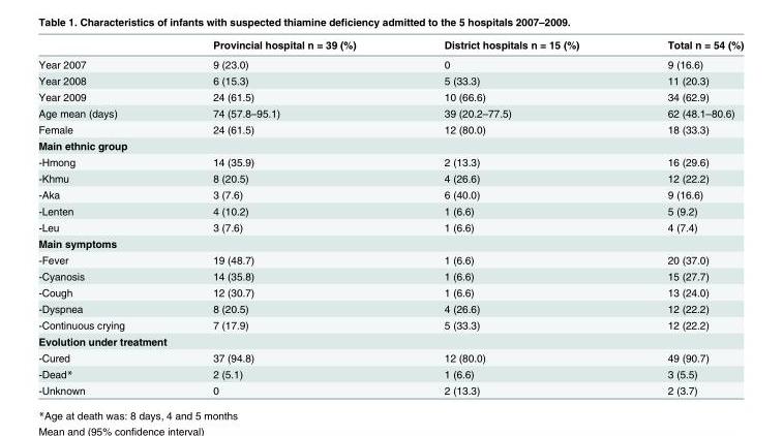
<table><thead><tr><td></td><td>Provincial hospital n = 39 (%)</td><td>District hospitals n = 15 (%)</td><td>Total n = 54 (%)</td></tr></thead><tbody><tr><td>Year 2007</td><td>9 (23.0)</td><td>0</td><td>9 (16.6)</td></tr><tr><td>Year 2008</td><td>6 (15.3)</td><td>5 (33.3)</td><td>11 (20.3)</td></tr><tr><td>Year 2009</td><td>24 (61.5)</td><td>10 (66.6)</td><td>34 (62.9)</td></tr><tr><td>Age mean (days)</td><td>74 (57.8–95.1)</td><td>39 (20.2–77.5)</td><td>62 (48.1–80.6)</td></tr><tr><td>Female</td><td>24 (61.5)</td><td>12 (80.0)</td><td>18 (33.3)</td></tr><tr><td colspan="4">Main ethnic group</td></tr><tr><td>-Hmong</td><td>14 (35.9)</td><td>2 (13.3)</td><td>16 (29.6)</td></tr><tr><td>-Khmu</td><td>8 (20.5)</td><td>4 (26.6)</td><td>12 (22.2)</td></tr><tr><td>-Aka</td><td>3 (7.6)</td><td>6 (40.0)</td><td>9 (16.6)</td></tr><tr><td>-Lenten</td><td>4 (10.2)</td><td>1 (6.6)</td><td>5 (9.2)</td></tr><tr><td>-Leu</td><td>3 (7.6)</td><td>1 (6.6)</td><td>4 (7.4)</td></tr><tr><td colspan="4">Main symptoms</td></tr><tr><td>-Fever</td><td>19 (48.7)</td><td>1 (6.6)</td><td>20 (37.0)</td></tr><tr><td>-Cyanosis</td><td>14 (35.8)</td><td>1 (6.6)</td><td>15 (27.7)</td></tr><tr><td>-Cough</td><td>12 (30.7)</td><td>1 (6.6)</td><td>13 (24.0)</td></tr><tr><td>-Dyspnea</td><td>8 (20.5)</td><td>4 (26.6)</td><td>12 (22.2)</td></tr><tr><td>-Continuous crying</td><td>7 (17.9)</td><td>5 (33.3)</td><td>12 (22.2)</td></tr><tr><td colspan="4">Evolution under treatment</td></tr><tr><td>-Cured</td><td>37 (94.8)</td><td>12 (80.0)</td><td>49 (90.7)</td></tr><tr><td>-Dead*</td><td>2 (5.1)</td><td>1 (6.6)</td><td>3 (5.5)</td></tr><tr><td>-Unknown</td><td>0</td><td>2 (13.3)</td><td>2 (3.7)</td></tr></tbody></table>